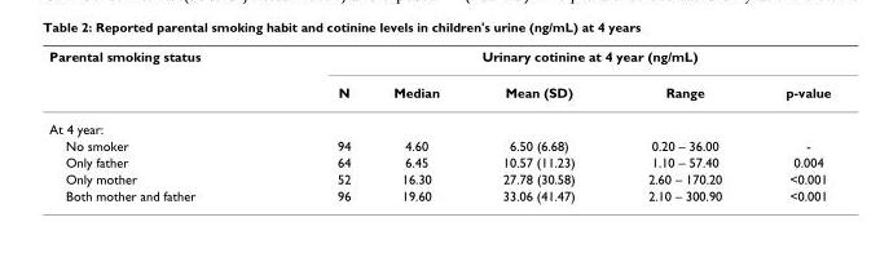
<table><thead><tr><td rowspan="2">Parental smoking status</td><td colspan="5">Urinary cotinine at 4 year (ng/mL)</td></tr><tr><td>N</td><td>Median</td><td>Mean (SD)</td><td>Range</td><td>p-value</td></tr></thead><tbody><tr><td colspan="6">At 4 year:</td></tr><tr><td>No smoker</td><td>94</td><td>4.60</td><td>6.50 (6.68)</td><td>0.20 – 36.00</td><td>-</td></tr><tr><td>Only father</td><td>64</td><td>6.45</td><td>10.57 (11.23)</td><td>1.10 – 57.40</td><td>0.004</td></tr><tr><td>Only mother</td><td>52</td><td>16.30</td><td>27.78 (30.58)</td><td>2.60 – 170.20</td><td>&lt;0.001</td></tr><tr><td>Both mother and father</td><td>96</td><td>19.60</td><td>33.06 (41.47)</td><td>2.10 – 300.90</td><td>&lt;0.001</td></tr></tbody></table>